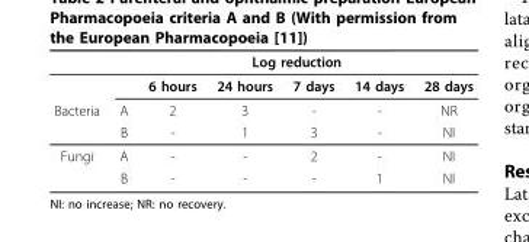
<table><thead><tr><td rowspan="2"></td><td colspan="6">Log reduction</td></tr><tr><td></td><td>6 hours</td><td>24 hours</td><td>7 days</td><td>14 days</td><td>28 days</td></tr></thead><tbody><tr><td rowspan="2">Bacteria</td><td>A</td><td>2</td><td>3</td><td>-</td><td>-</td><td>NR</td></tr><tr><td>B</td><td>-</td><td>1</td><td>3</td><td>-</td><td>NI</td></tr><tr><td rowspan="2">Fungi</td><td>A</td><td>-</td><td>-</td><td>2</td><td>-</td><td>NI</td></tr><tr><td>B</td><td>-</td><td>-</td><td>-</td><td>1</td><td>NI</td></tr></tbody></table>